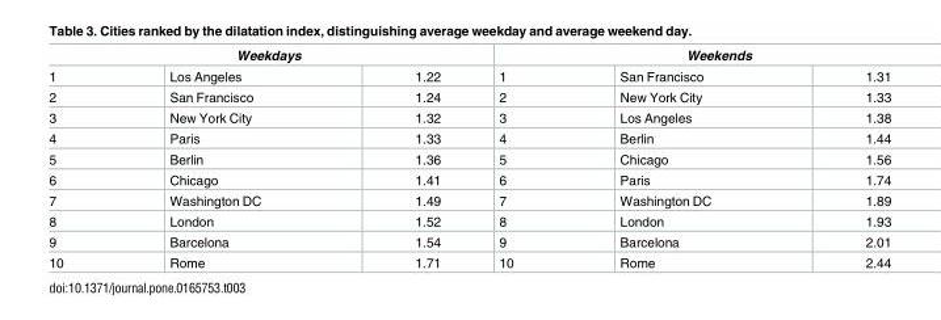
<table><thead><tr><td colspan="3">Weekdays</td><td colspan="3">Weekends</td></tr><tr><td>1</td><td>Los Angeles</td><td>1.22</td><td>1</td><td>San Francisco</td><td>1.31</td></tr></thead><tbody><tr><td>2</td><td>San Francisco</td><td>1.24</td><td>2</td><td>New York City</td><td>1.33</td></tr><tr><td>3</td><td>New York City</td><td>1.32</td><td>3</td><td>Los Angeles</td><td>1.38</td></tr><tr><td>4</td><td>Paris</td><td>1.33</td><td>4</td><td>Berlin</td><td>1.44</td></tr><tr><td>5</td><td>Berlin</td><td>1.36</td><td>5</td><td>Chicago</td><td>1.56</td></tr><tr><td>6</td><td>Chicago</td><td>1.41</td><td>6</td><td>Paris</td><td>1.74</td></tr><tr><td>7</td><td>Washington DC</td><td>1.49</td><td>7</td><td>Washington DC</td><td>1.89</td></tr><tr><td>8</td><td>London</td><td>1.52</td><td>8</td><td>London</td><td>1.93</td></tr><tr><td>9</td><td>Barcelona</td><td>1.54</td><td>9</td><td>Barcelona</td><td>2.01</td></tr><tr><td>10</td><td>Rome</td><td>1.71</td><td>10</td><td>Rome</td><td>2.44</td></tr></tbody></table>